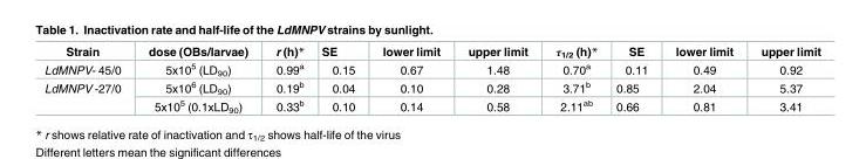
<table><thead><tr><td>Strain</td><td>dose (OBs/larvae)</td><td>r (h)*</td><td>SE</td><td>lower limit</td><td>upper limit</td><td>τ<sub>1/2</sub> (h)*</td><td>SE</td><td>lower limit</td><td>upper limit</td></tr></thead><tbody><tr><td>LdMNPV- 45/0</td><td>5x10<sup>5</sup> (LD<sub>90</sub>)</td><td>0.99<sup>a</sup></td><td>0.15</td><td>0.67</td><td>1.48</td><td>0.70<sup>a</sup></td><td>0.11</td><td>0.49</td><td>0.92</td></tr><tr><td rowspan="2">LdMNPV -27/0</td><td>5x10<sup>6</sup> (LD<sub>90</sub>)</td><td>0.19<sup>b</sup></td><td>0.04</td><td>0.10</td><td>0.28</td><td>3.71<sup>b</sup></td><td>0.85</td><td>2.04</td><td>5.37</td></tr><tr><td>5x10<sup>5</sup> (0.1xLD<sub>90</sub>)</td><td>0.33<sup>b</sup></td><td>0.10</td><td>0.14</td><td>0.58</td><td>2.11<sup>ab</sup></td><td>0.66</td><td>0.81</td><td>3.41</td></tr></tbody></table>